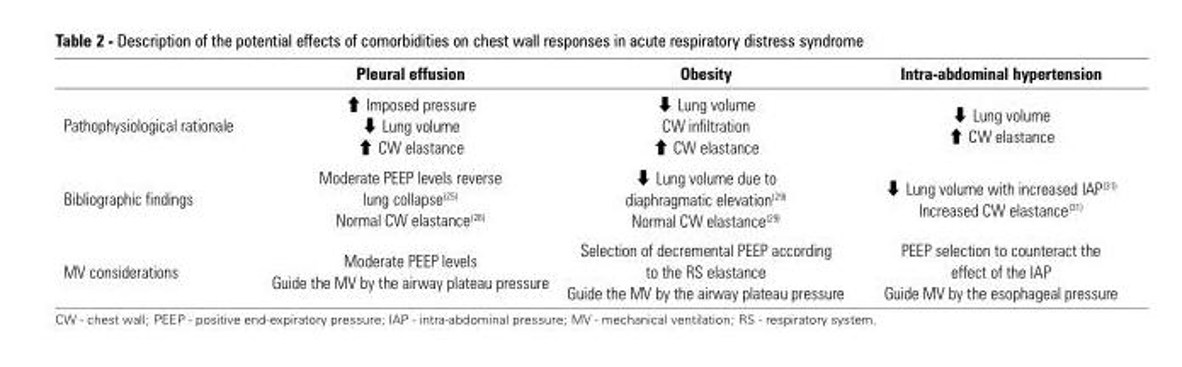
<table><thead><tr><td></td><td>Pleural effusion</td><td>Obesity</td><td>Intra-abdominal hypertension</td></tr></thead><tbody><tr><td>Pathophysiological rationale</td><td>⬆ Imposed pressure ⬇ Lung volume ⬆ CW elastance</td><td>⬇ Lung volume CW infiltration ⬆ CW elastance</td><td>⬇ Lung volume ⬆ CW elastance</td></tr><tr><td>Bibliographic findings</td><td>Moderate PEEP levels reverse lung collapse<sup>(25)</sup> Normal CW elastance<sup>(26)</sup></td><td>⬇ Lung volume due to diaphragmatic elevation<sup>(29)</sup> Normal CW elastance<sup>(29)</sup></td><td>⬇ Lung volume with increased IAP<sup>(31)</sup> Increased CW elastance<sup>(31)</sup></td></tr><tr><td>MV considerations</td><td>Moderate PEEP levels Guide the MV by the airway plateau pressure</td><td>Selection of decremental PEEP according to the RS elastance Guide the MV by the airway plateau pressure</td><td>PEEP selection to counteract the effect of the IAP Guide MV by the esophageal pressure</td></tr></tbody></table>